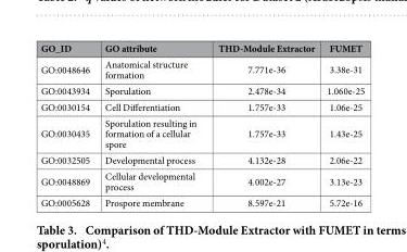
<table><thead><tr><td>GO_ID</td><td>GO attribute</td><td>THD-Module Extractor</td><td>FUMET</td></tr></thead><tbody><tr><td>GO:0048646</td><td>Anatomical structure formation</td><td>7.771e-36</td><td>3.38e-31</td></tr><tr><td>GO:0043934</td><td>Sporulation</td><td>2.478e-34</td><td>1.060e-25</td></tr><tr><td>GO:0030154</td><td>Cell Differentiation</td><td>1.757e-33</td><td>1.06e-25</td></tr><tr><td>GO:0030435</td><td>Sporulation resulting in formation of a cellular spore</td><td>1.757e-33</td><td>1.43e-25</td></tr><tr><td>GO:0032505</td><td>Developmental process</td><td>4.132e-28</td><td>2.06e-22</td></tr><tr><td>GO:0048869</td><td>Cellular developmental process</td><td>4.002e-27</td><td>3.13e-23</td></tr><tr><td>GO:0005628</td><td>Prospore membrane</td><td>8.597e-21</td><td>5.72e-16</td></tr></tbody></table>